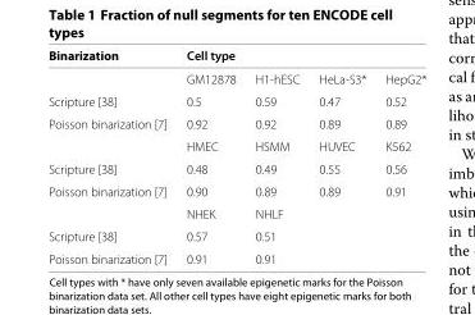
<table><thead><tr><td rowspan="2">Binarization</td><td colspan="4">Cell type</td></tr><tr><td>GM12878</td><td>H1-hESC</td><td>HeLa-S3*</td><td>HepG2*</td></tr></thead><tbody><tr><td>Scripture [38]</td><td>0.5</td><td>0.59</td><td>0.47</td><td>0.52</td></tr><tr><td rowspan="2">Poisson binarization [7]</td><td>0.92</td><td>0.92</td><td>0.89</td><td>0.89</td></tr><tr><td>HMEC</td><td>HSMM</td><td>HUVEC</td><td>K562</td></tr><tr><td>Scripture [38]</td><td>0.48</td><td>0.49</td><td>0.55</td><td>0.56</td></tr><tr><td rowspan="2">Poisson binarization [7]</td><td>0.90</td><td>0.89</td><td>0.89</td><td>0.91</td></tr><tr><td>NHEK</td><td>NHLF</td><td></td><td></td></tr><tr><td>Scripture [38]</td><td>0.57</td><td>0.51</td><td></td><td></td></tr><tr><td>Poisson binarization [7]</td><td>0.91</td><td>0.91</td><td></td><td></td></tr></tbody></table>